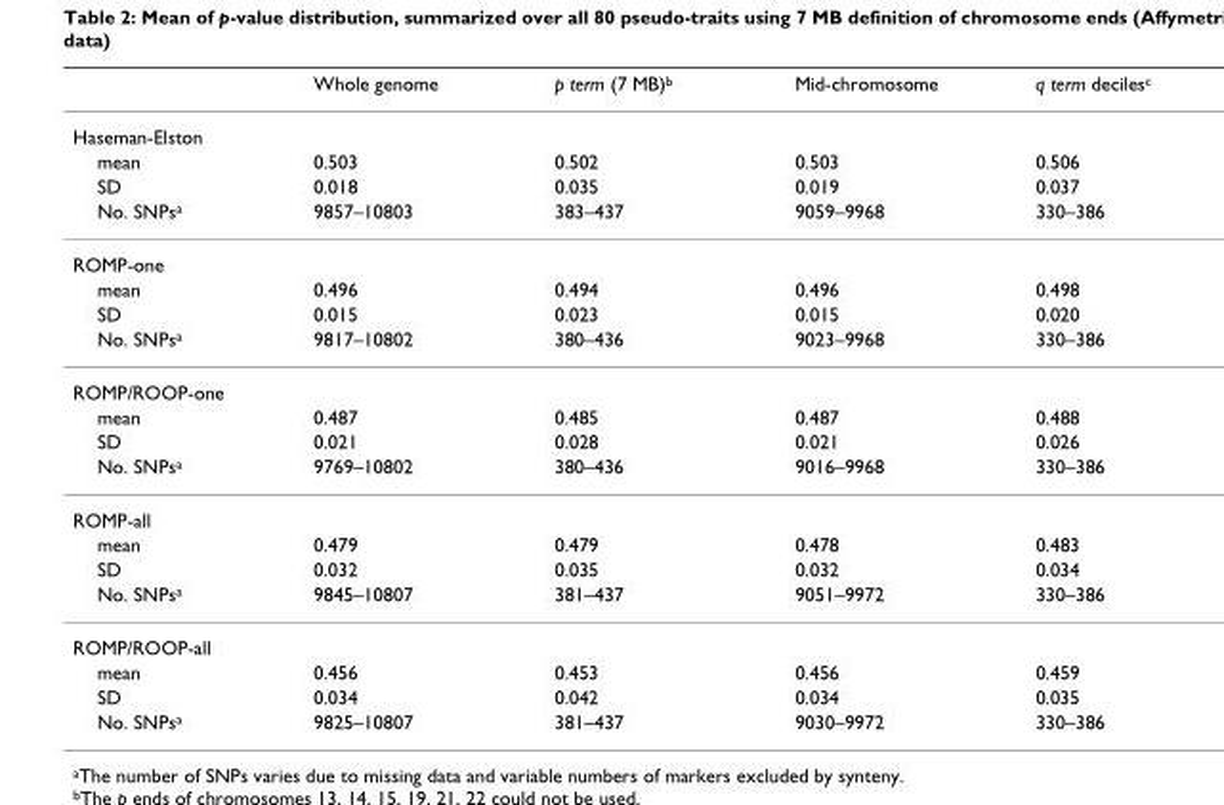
<table><thead><tr><td></td><td>Whole genome</td><td>p term (7 MB)b</td><td>Mid-chromosome</td><td>q term decilesc</td></tr></thead><tbody><tr><td colspan="5">Haseman-Elston</td></tr><tr><td>mean</td><td>0.503</td><td>0.502</td><td>0.503</td><td>0.506</td></tr><tr><td>SD</td><td>0.018</td><td>0.035</td><td>0.019</td><td>0.037</td></tr><tr><td>No. SNPsa</td><td>9857–10803</td><td>383–437</td><td>9059–9968</td><td>330–386</td></tr><tr><td colspan="5">ROMP-one</td></tr><tr><td>mean</td><td>0.496</td><td>0.494</td><td>0.496</td><td>0.498</td></tr><tr><td>SD</td><td>0.015</td><td>0.023</td><td>0.015</td><td>0.020</td></tr><tr><td>No. SNPsa</td><td>9817–10802</td><td>380–436</td><td>9023–9968</td><td>330–386</td></tr><tr><td colspan="5">ROMP/ROOP-one</td></tr><tr><td>mean</td><td>0.487</td><td>0.485</td><td>0.487</td><td>0.488</td></tr><tr><td>SD</td><td>0.021</td><td>0.028</td><td>0.021</td><td>0.026</td></tr><tr><td>No. SNPsa</td><td>9769–10802</td><td>380–436</td><td>9016–9968</td><td>330–386</td></tr><tr><td colspan="5">ROMP-all</td></tr><tr><td>mean</td><td>0.479</td><td>0.479</td><td>0.478</td><td>0.483</td></tr><tr><td>SD</td><td>0.032</td><td>0.035</td><td>0.032</td><td>0.034</td></tr><tr><td>No. SNPsa</td><td>9845–10807</td><td>381–437</td><td>9051–9972</td><td>330–386</td></tr><tr><td colspan="5">ROMP/ROOP-all</td></tr><tr><td>mean</td><td>0.456</td><td>0.453</td><td>0.456</td><td>0.459</td></tr><tr><td>SD</td><td>0.034</td><td>0.042</td><td>0.034</td><td>0.035</td></tr><tr><td>No. SNPsa</td><td>9825–10807</td><td>381–437</td><td>9030–9972</td><td>330–386</td></tr></tbody></table>